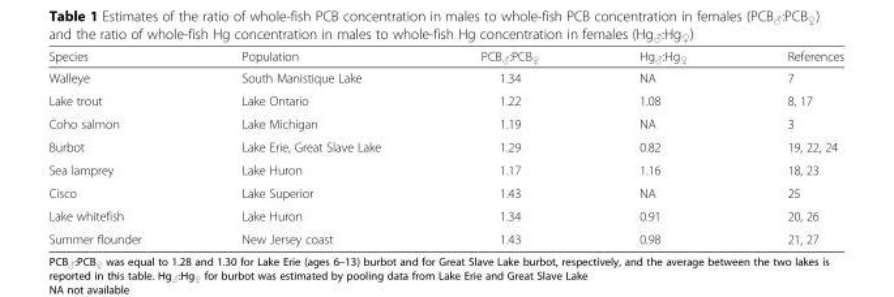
<table><thead><tr><td>Species</td><td>Population</td><td>PCB<sub>♂</sub>:PCB<sub>♀</sub></td><td>Hg<sub>♂</sub>:Hg<sub>♀</sub></td><td>References</td></tr></thead><tbody><tr><td>Walleye</td><td>South Manistique Lake</td><td>1.34</td><td>NA</td><td>7</td></tr><tr><td>Lake trout</td><td>Lake Ontario</td><td>1.22</td><td>1.08</td><td>8, 17</td></tr><tr><td>Coho salmon</td><td>Lake Michigan</td><td>1.19</td><td>NA</td><td>3</td></tr><tr><td>Burbot</td><td>Lake Erie, Great Slave Lake</td><td>1.29</td><td>0.82</td><td>19, 22, 24</td></tr><tr><td>Sea lamprey</td><td>Lake Huron</td><td>1.17</td><td>1.16</td><td>18, 23</td></tr><tr><td>Cisco</td><td>Lake Superior</td><td>1.43</td><td>NA</td><td>25</td></tr><tr><td>Lake whitefish</td><td>Lake Huron</td><td>1.34</td><td>0.91</td><td>20, 26</td></tr><tr><td>Summer flounder</td><td>New Jersey coast</td><td>1.43</td><td>0.98</td><td>21, 27</td></tr></tbody></table>